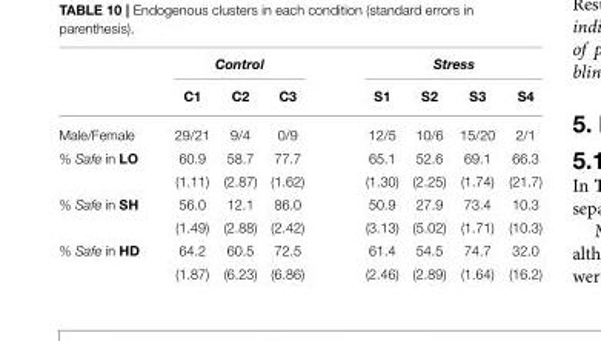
<table><thead><tr><td rowspan="2"></td><td colspan="3">Control</td><td colspan="4">Stress</td></tr><tr><td>C1</td><td>C2</td><td>C3</td><td>S1</td><td>S2</td><td>S3</td><td>S4</td></tr></thead><tbody><tr><td>Male/Female</td><td>29/21</td><td>9/4</td><td>0/9</td><td>12/5</td><td>10/6</td><td>15/20</td><td>2/1</td></tr><tr><td rowspan="2">% Safe in LO</td><td>60.9</td><td>58.7</td><td>77.7</td><td>65.1</td><td>52.6</td><td>69.1</td><td>66.3</td></tr><tr><td>(1.11)</td><td>(2.87)</td><td>(1.62)</td><td>(1.30)</td><td>(2.25)</td><td>(1.74)</td><td>(21.7)</td></tr><tr><td rowspan="2">% Safe in SH</td><td>56.0</td><td>12.1</td><td>86.0</td><td>50.9</td><td>27.9</td><td>73.4</td><td>10.3</td></tr><tr><td>(1.49)</td><td>(2.88)</td><td>(2.42)</td><td>(3.13)</td><td>(5.02)</td><td>(1.71)</td><td>(10.3)</td></tr><tr><td rowspan="2">% Safe in HD</td><td>64.2</td><td>60.5</td><td>72.5</td><td>61.4</td><td>54.5</td><td>74.7</td><td>32.0</td></tr><tr><td>(1.87)</td><td>(6.23)</td><td>(6.86)</td><td>(2.46)</td><td>(2.89)</td><td>(1.64)</td><td>(16.2)</td></tr></tbody></table>